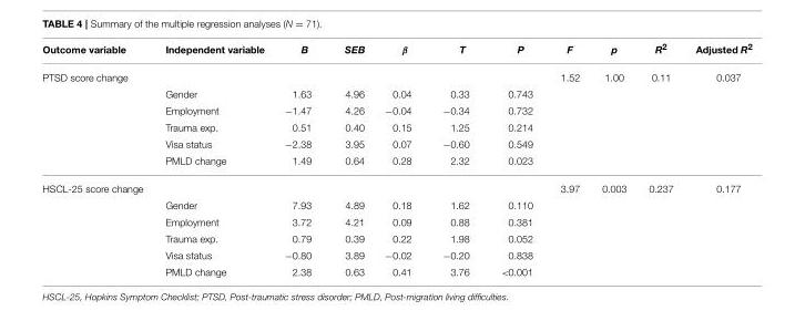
<table><thead><tr><td>Outcome variable</td><td>Independent variable</td><td>B</td><td>SEB</td><td>β</td><td>T</td><td>P</td><td>F</td><td>p</td><td>R<sup>2</sup></td><td>Adjusted R<sup>2</sup></td></tr></thead><tbody><tr><td rowspan="6">PTSD score change</td><td></td><td></td><td></td><td></td><td></td><td></td><td>1.52</td><td>1.00</td><td>0.11</td><td>0.037</td></tr><tr><td>Gender</td><td>1.63</td><td>4.96</td><td>0.04</td><td>0.33</td><td>0.743</td><td></td><td></td><td></td><td></td></tr><tr><td>Employment</td><td>−1.47</td><td>4.26</td><td>−0.04</td><td>−0.34</td><td>0.732</td><td></td><td></td><td></td><td></td></tr><tr><td>Trauma exp.</td><td>0.51</td><td>0.40</td><td>0.15</td><td>1.25</td><td>0.214</td><td></td><td></td><td></td><td></td></tr><tr><td>Visa status</td><td>−2.38</td><td>3.95</td><td>0.07</td><td>−0.60</td><td>0.549</td><td></td><td></td><td></td><td></td></tr><tr><td>PMLD change</td><td>1.49</td><td>0.64</td><td>0.28</td><td>2.32</td><td>0.023</td><td></td><td></td><td></td><td></td></tr><tr><td rowspan="6">HSCL-25 score change</td><td></td><td></td><td></td><td></td><td></td><td></td><td>3.97</td><td>0.003</td><td>0.237</td><td>0.177</td></tr><tr><td>Gender</td><td>7.93</td><td>4.89</td><td>0.18</td><td>1.62</td><td>0.110</td><td></td><td></td><td></td><td></td></tr><tr><td>Employment</td><td>3.72</td><td>4.21</td><td>0.09</td><td>0.88</td><td>0.381</td><td></td><td></td><td></td><td></td></tr><tr><td>Trauma exp.</td><td>0.79</td><td>0.39</td><td>0.22</td><td>1.98</td><td>0.052</td><td></td><td></td><td></td><td></td></tr><tr><td>Visa status</td><td>−0.80</td><td>3.89</td><td>−0.02</td><td>−0.20</td><td>0.838</td><td></td><td></td><td></td><td></td></tr><tr><td>PMLD change</td><td>2.38</td><td>0.63</td><td>0.41</td><td>3.76</td><td>&lt;0.001</td><td></td><td></td><td></td><td></td></tr></tbody></table>